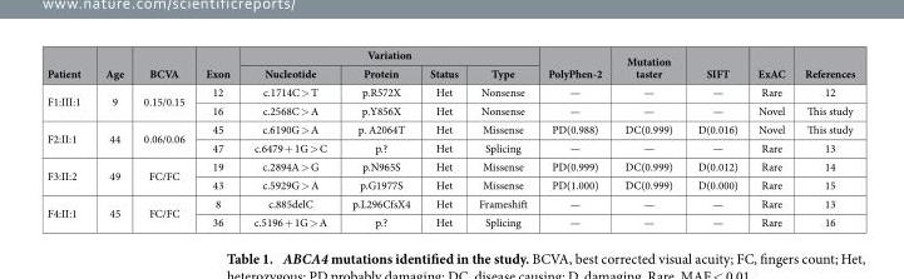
<table><thead><tr><td rowspan="2">Patient</td><td rowspan="2">Age</td><td rowspan="2">BCVA</td><td rowspan="2">Exon</td><td colspan="4">Variation</td><td rowspan="2">PolyPhen-2</td><td rowspan="2">Mutation taster</td><td rowspan="2">SIFT</td><td rowspan="2">ExAC</td><td rowspan="2">References</td></tr><tr><td>Nucleotide</td><td>Protein</td><td>Status</td><td>Type</td></tr></thead><tbody><tr><td rowspan="2">F1:III:1</td><td rowspan="2">9</td><td rowspan="2">0.15/0.15</td><td>12</td><td>c.1714C &gt; T</td><td>p.R572X</td><td>Het</td><td>Nonsense</td><td>—</td><td>—</td><td>—</td><td>Rare</td><td>12</td></tr><tr><td>16</td><td>c.2568C &gt; A</td><td>p.Y856X</td><td>Het</td><td>Nonsense</td><td>—</td><td>—</td><td>—</td><td>Novel</td><td>This study</td></tr><tr><td rowspan="2">F2:II:1</td><td rowspan="2">44</td><td rowspan="2">0.06/0.06</td><td>45</td><td>c.6190G &gt; A</td><td>p. A2064T</td><td>Het</td><td>Missense</td><td>PD(0.988)</td><td>DC(0.999)</td><td>D(0.016)</td><td>Novel</td><td>This study</td></tr><tr><td>47</td><td>c.6479 + 1G &gt; C</td><td>p.?</td><td>Het</td><td>Splicing</td><td>—</td><td>—</td><td>—</td><td>Rare</td><td>13</td></tr><tr><td rowspan="2">F3:II:2</td><td rowspan="2">49</td><td rowspan="2">FC/FC</td><td>19</td><td>c.2894A &gt; G</td><td>p.N965S</td><td>Het</td><td>Missense</td><td>PD(0.999)</td><td>DC(0.999)</td><td>D(0.012)</td><td>Rare</td><td>14</td></tr><tr><td>43</td><td>c.5929G &gt; A</td><td>p.G1977S</td><td>Het</td><td>Missense</td><td>PD(1.000)</td><td>DC(0.999)</td><td>D(0.000)</td><td>Rare</td><td>15</td></tr><tr><td rowspan="2">F4:II:1</td><td rowspan="2">45</td><td rowspan="2">FC/FC</td><td>8</td><td>c.885delC</td><td>p.L296CfsX4</td><td>Het</td><td>Frameshift</td><td>—</td><td>—</td><td>—</td><td>Rare</td><td>13</td></tr><tr><td>36</td><td>c.5196 + 1G &gt; A</td><td>p.?</td><td>Het</td><td>Splicing</td><td>—</td><td>—</td><td>—</td><td>Rare</td><td>16</td></tr></tbody></table>